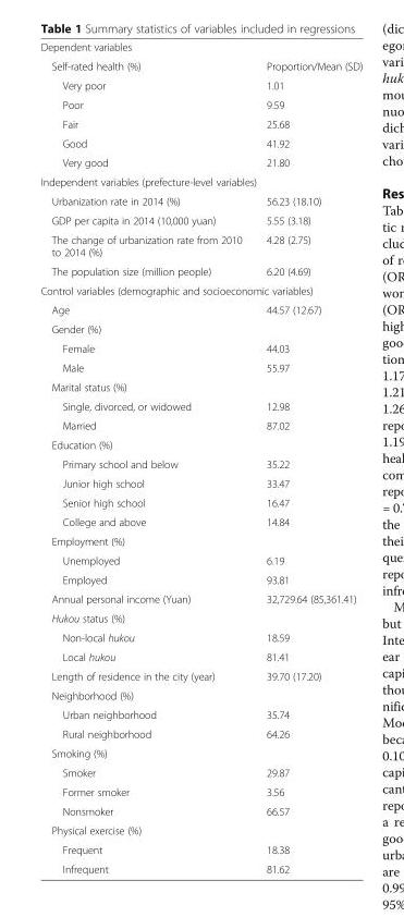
<table><tbody><tr><td colspan="2">Dependent variables</td></tr><tr><td>Self-rated health (%)</td><td>Proportion/Mean (SD)</td></tr><tr><td>Very poor</td><td>1.01</td></tr><tr><td>Poor</td><td>9.59</td></tr><tr><td>Fair</td><td>25.68</td></tr><tr><td>Good</td><td>41.92</td></tr><tr><td>Very good</td><td>21.80</td></tr><tr><td colspan="2">Independent variables (prefecture-level variables)</td></tr><tr><td>Urbanization rate in 2014 (%)</td><td>56.23 (18.10)</td></tr><tr><td>GDP per capita in 2014 (10,000 yuan)</td><td>5.55 (3.18)</td></tr><tr><td>The change of urbanization rate from 2010 to 2014 (%)</td><td>4.28 (2.75)</td></tr><tr><td>The population size (million people)</td><td>6.20 (4.69)</td></tr><tr><td colspan="2">Control variables (demographic and socioeconomic variables)</td></tr><tr><td>Age</td><td>44.57 (12.67)</td></tr><tr><td colspan="2">Gender (%)</td></tr><tr><td>Female</td><td>44.03</td></tr><tr><td>Male</td><td>55.97</td></tr><tr><td colspan="2">Marital status (%)</td></tr><tr><td>Single, divorced, or widowed</td><td>12.98</td></tr><tr><td>Married</td><td>87.02</td></tr><tr><td colspan="2">Education (%)</td></tr><tr><td>Primary school and below</td><td>35.22</td></tr><tr><td>Junior high school</td><td>33.47</td></tr><tr><td>Senior high school</td><td>16.47</td></tr><tr><td>College and above</td><td>14.84</td></tr><tr><td colspan="2">Employment (%)</td></tr><tr><td>Unemployed</td><td>6.19</td></tr><tr><td>Employed</td><td>93.81</td></tr><tr><td>Annual personal income (Yuan)</td><td>32,729.64 (85,361.41)</td></tr><tr><td colspan="2">Hukou status (%)</td></tr><tr><td>Non-local hukou</td><td>18.59</td></tr><tr><td>Local hukou</td><td>81.41</td></tr><tr><td>Length of residence in the city (year)</td><td>39.70 (17.20)</td></tr><tr><td colspan="2">Neighborhood (%)</td></tr><tr><td>Urban neighborhood</td><td>35.74</td></tr><tr><td>Rural neighborhood</td><td>64.26</td></tr><tr><td colspan="2">Smoking (%)</td></tr><tr><td>Smoker</td><td>29.87</td></tr><tr><td>Former smoker</td><td>3.56</td></tr><tr><td>Nonsmoker</td><td>66.57</td></tr><tr><td colspan="2">Physical exercise (%)</td></tr><tr><td>Frequent</td><td>18.38</td></tr><tr><td>Infrequent</td><td>81.62</td></tr></tbody></table>